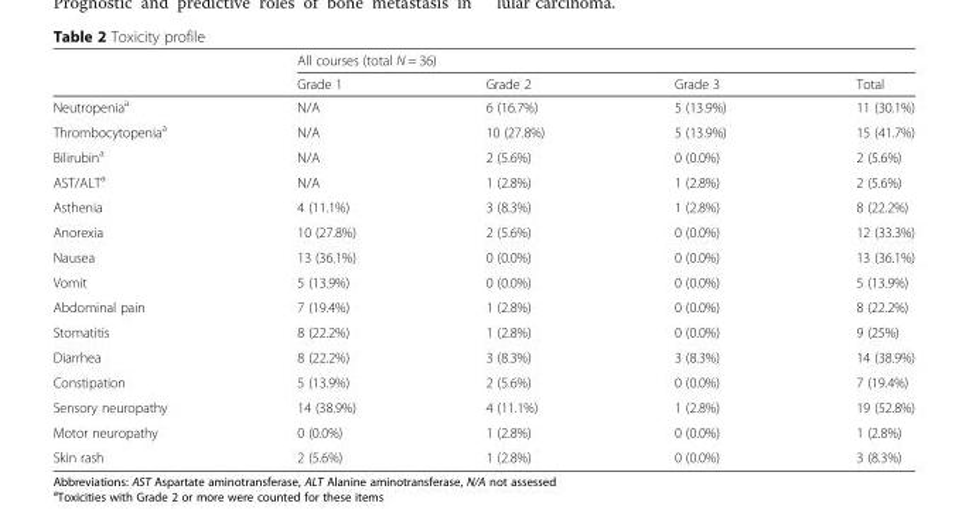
<table><thead><tr><td rowspan="2"></td><td colspan="4">All courses (total N = 36)</td></tr><tr><td>Grade 1</td><td>Grade 2</td><td>Grade 3</td><td>Total</td></tr></thead><tbody><tr><td>Neutropenia<sup>a</sup></td><td>N/A</td><td>6 (16.7%)</td><td>5 (13.9%)</td><td>11 (30.1%)</td></tr><tr><td>Thrombocytopenia<sup>a</sup></td><td>N/A</td><td>10 (27.8%)</td><td>5 (13.9%)</td><td>15 (41.7%)</td></tr><tr><td>Bilirubin<sup>a</sup></td><td>N/A</td><td>2 (5.6%)</td><td>0 (0.0%)</td><td>2 (5.6%)</td></tr><tr><td>AST/ALT<sup>a</sup></td><td>N/A</td><td>1 (2.8%)</td><td>1 (2.8%)</td><td>2 (5.6%)</td></tr><tr><td>Asthenia</td><td>4 (11.1%)</td><td>3 (8.3%)</td><td>1 (2.8%)</td><td>8 (22.2%)</td></tr><tr><td>Anorexia</td><td>10 (27.8%)</td><td>2 (5.6%)</td><td>0 (0.0%)</td><td>12 (33.3%)</td></tr><tr><td>Nausea</td><td>13 (36.1%)</td><td>0 (0.0%)</td><td>0 (0.0%)</td><td>13 (36.1%)</td></tr><tr><td>Vomit</td><td>5 (13.9%)</td><td>0 (0.0%)</td><td>0 (0.0%)</td><td>5 (13.9%)</td></tr><tr><td>Abdominal pain</td><td>7 (19.4%)</td><td>1 (2.8%)</td><td>0 (0.0%)</td><td>8 (22.2%)</td></tr><tr><td>Stomatitis</td><td>8 (22.2%)</td><td>1 (2.8%)</td><td>0 (0.0%)</td><td>9 (25%)</td></tr><tr><td>Diarrhea</td><td>8 (22.2%)</td><td>3 (8.3%)</td><td>3 (8.3%)</td><td>14 (38.9%)</td></tr><tr><td>Constipation</td><td>5 (13.9%)</td><td>2 (5.6%)</td><td>0 (0.0%)</td><td>7 (19.4%)</td></tr><tr><td>Sensory neuropathy</td><td>14 (38.9%)</td><td>4 (11.1%)</td><td>1 (2.8%)</td><td>19 (52.8%)</td></tr><tr><td>Motor neuropathy</td><td>0 (0.0%)</td><td>1 (2.8%)</td><td>0 (0.0%)</td><td>1 (2.8%)</td></tr><tr><td>Skin rash</td><td>2 (5.6%)</td><td>1 (2.8%)</td><td>0 (0.0%)</td><td>3 (8.3%)</td></tr></tbody></table>